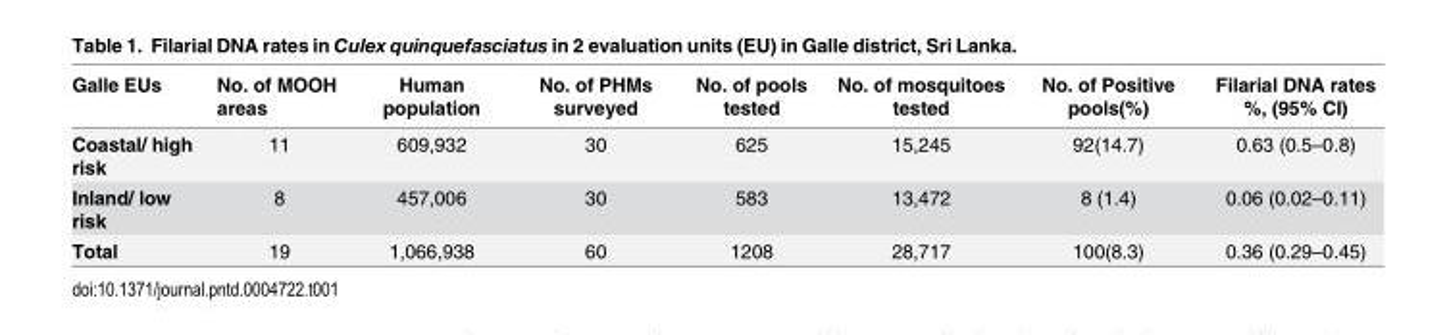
<table><thead><tr><td>Galle EUs</td><td>No. of MOOH areas</td><td>Human population</td><td>No. of PHMs surveyed</td><td>No. of pools tested</td><td>No. of mosquitoes tested</td><td>No. of Positive pools(%)</td><td>Filarial DNA rates %, (95% CI)</td></tr></thead><tbody><tr><td>Coastal/ high risk</td><td>11</td><td>609,932</td><td>30</td><td>625</td><td>15,245</td><td>92(14.7)</td><td>0.63 (0.5–0.8)</td></tr><tr><td>Inland/ low risk</td><td>8</td><td>457,006</td><td>30</td><td>583</td><td>13,472</td><td>8 (1.4)</td><td>0.06 (0.02–0.11)</td></tr><tr><td>Total</td><td>19</td><td>1,066,938</td><td>60</td><td>1208</td><td>28,717</td><td>100(8.3)</td><td>0.36 (0.29–0.45)</td></tr></tbody></table>